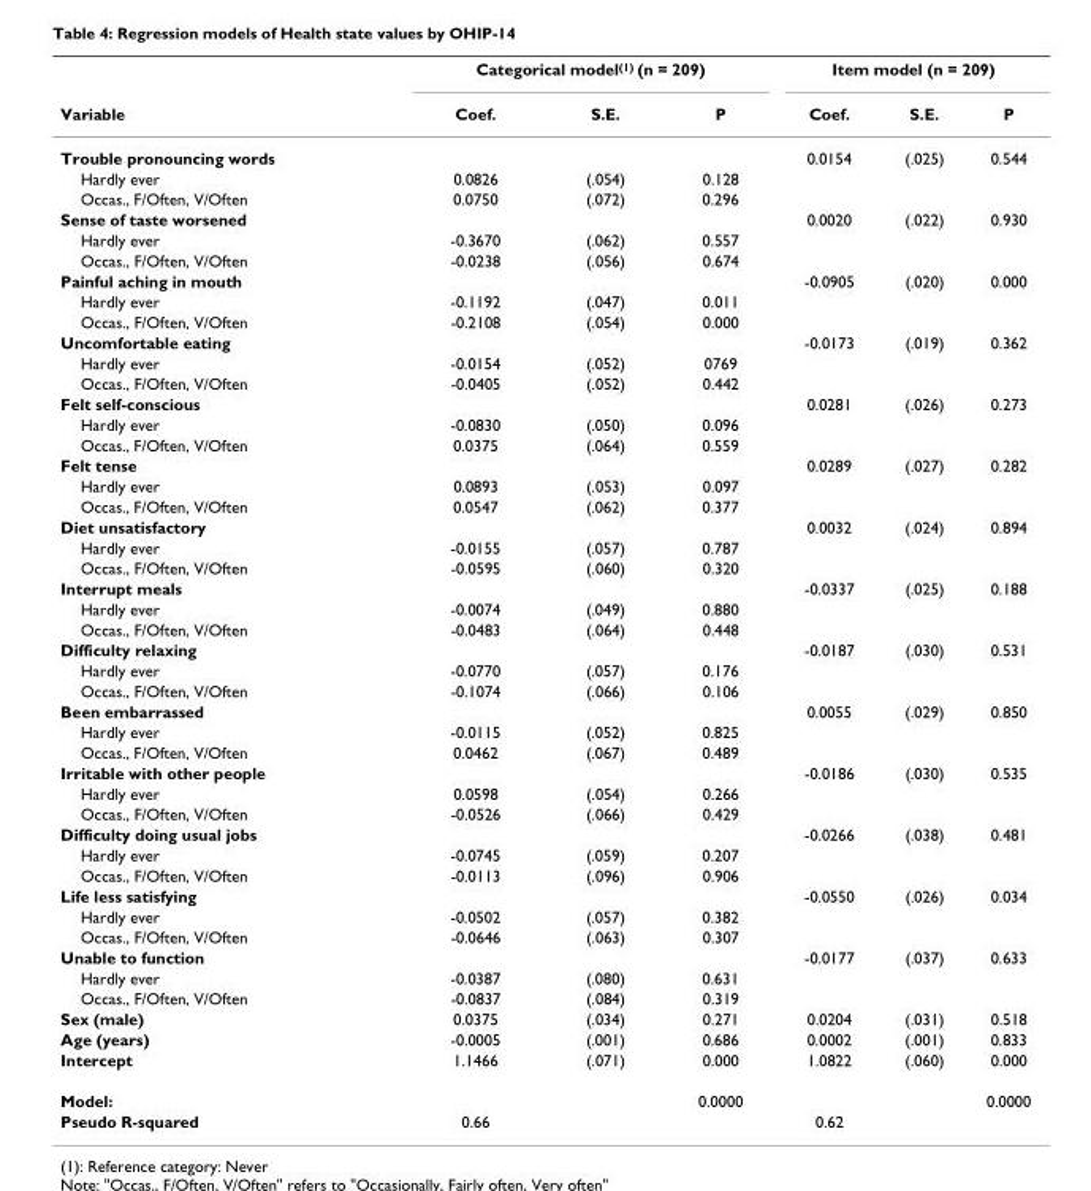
<table><thead><tr><td rowspan="2">Variable</td><td colspan="3">Categorical model(1) (n = 209)</td><td colspan="3">Item model (n = 209)</td></tr><tr><td>Coef.</td><td>S.E.</td><td>P</td><td>Coef.</td><td>S.E.</td><td>P</td></tr></thead><tbody><tr><td>Trouble pronouncing words</td><td></td><td></td><td></td><td>0.0154</td><td>(.025)</td><td>0.544</td></tr><tr><td>Hardly ever</td><td>0.0826</td><td>(.054)</td><td>0.128</td><td></td><td></td><td></td></tr><tr><td>Occas., F/Often, V/Often</td><td>0.0750</td><td>(.072)</td><td>0.296</td><td></td><td></td><td></td></tr><tr><td>Sense of taste worsened</td><td></td><td></td><td></td><td>0.0020</td><td>(.022)</td><td>0.930</td></tr><tr><td>Hardly ever</td><td>-0.3670</td><td>(.062)</td><td>0.557</td><td></td><td></td><td></td></tr><tr><td>Occas., F/Often, V/Often</td><td>-0.0238</td><td>(.056)</td><td>0.674</td><td></td><td></td><td></td></tr><tr><td>Painful aching in mouth</td><td></td><td></td><td></td><td>-0.0905</td><td>(.020)</td><td>0.000</td></tr><tr><td>Hardly ever</td><td>-0.1192</td><td>(.047)</td><td>0.011</td><td></td><td></td><td></td></tr><tr><td>Occas., F/Often, V/Often</td><td>-0.2108</td><td>(.054)</td><td>0.000</td><td></td><td></td><td></td></tr><tr><td>Uncomfortable eating</td><td></td><td></td><td></td><td>-0.0173</td><td>(.019)</td><td>0.362</td></tr><tr><td>Hardly ever</td><td>-0.0154</td><td>(.052)</td><td>0769</td><td></td><td></td><td></td></tr><tr><td>Occas., F/Often, V/Often</td><td>-0.0405</td><td>(.052)</td><td>0.442</td><td></td><td></td><td></td></tr><tr><td>Felt self-conscious</td><td></td><td></td><td></td><td>0.0281</td><td>(.026)</td><td>0.273</td></tr><tr><td>Hardly ever</td><td>-0.0830</td><td>(.050)</td><td>0.096</td><td></td><td></td><td></td></tr><tr><td>Occas., F/Often, V/Often</td><td>0.0375</td><td>(.064)</td><td>0.559</td><td></td><td></td><td></td></tr><tr><td>Felt tense</td><td></td><td></td><td></td><td>0.0289</td><td>(.027)</td><td>0.282</td></tr><tr><td>Hardly ever</td><td>0.0893</td><td>(.053)</td><td>0.097</td><td></td><td></td><td></td></tr><tr><td>Occas., F/Often, V/Often</td><td>0.0547</td><td>(.062)</td><td>0.377</td><td></td><td></td><td></td></tr><tr><td>Diet unsatisfactory</td><td></td><td></td><td></td><td>0.0032</td><td>(.024)</td><td>0.894</td></tr><tr><td>Hardly ever</td><td>-0.0155</td><td>(.057)</td><td>0.787</td><td></td><td></td><td></td></tr><tr><td>Occas., F/Often, V/Often</td><td>-0.0595</td><td>(.060)</td><td>0.320</td><td></td><td></td><td></td></tr><tr><td>Interrupt meals</td><td></td><td></td><td></td><td>-0.0337</td><td>(.025)</td><td>0.188</td></tr><tr><td>Hardly ever</td><td>-0.0074</td><td>(.049)</td><td>0.880</td><td></td><td></td><td></td></tr><tr><td>Occas., F/Often, V/Often</td><td>-0.0483</td><td>(.064)</td><td>0.448</td><td></td><td></td><td></td></tr><tr><td>Difficulty relaxing</td><td></td><td></td><td></td><td>-0.0187</td><td>(.030)</td><td>0.531</td></tr><tr><td>Hardly ever</td><td>-0.0770</td><td>(.057)</td><td>0.176</td><td></td><td></td><td></td></tr><tr><td>Occas., F/Often, V/Often</td><td>-0.1074</td><td>(.066)</td><td>0.106</td><td></td><td></td><td></td></tr><tr><td>Been embarrassed</td><td></td><td></td><td></td><td>0.0055</td><td>(.029)</td><td>0.850</td></tr><tr><td>Hardly ever</td><td>-0.0115</td><td>(.052)</td><td>0.825</td><td></td><td></td><td></td></tr><tr><td>Occas., F/Often, V/Often</td><td>0.0462</td><td>(.067)</td><td>0.489</td><td></td><td></td><td></td></tr><tr><td>Irritable with other people</td><td></td><td></td><td></td><td>-0.0186</td><td>(.030)</td><td>0.535</td></tr><tr><td>Hardly ever</td><td>0.0598</td><td>(.054)</td><td>0.266</td><td></td><td></td><td></td></tr><tr><td>Occas., F/Often, V/Often</td><td>-0.0526</td><td>(.066)</td><td>0.429</td><td></td><td></td><td></td></tr><tr><td>Difficulty doing usual jobs</td><td></td><td></td><td></td><td>-0.0266</td><td>(.038)</td><td>0.481</td></tr><tr><td>Hardly ever</td><td>-0.0745</td><td>(.059)</td><td>0.207</td><td></td><td></td><td></td></tr><tr><td>Occas., F/Often, V/Often</td><td>-0.0113</td><td>(.096)</td><td>0.906</td><td></td><td></td><td></td></tr><tr><td>Life less satisfying</td><td></td><td></td><td></td><td>-0.0550</td><td>(.026)</td><td>0.034</td></tr><tr><td>Hardly ever</td><td>-0.0502</td><td>(.057)</td><td>0.382</td><td></td><td></td><td></td></tr><tr><td>Occas., F/Often, V/Often</td><td>-0.0646</td><td>(.063)</td><td>0.307</td><td></td><td></td><td></td></tr><tr><td>Unable to function</td><td></td><td></td><td></td><td>-0.0177</td><td>(.037)</td><td>0.633</td></tr><tr><td>Hardly ever</td><td>-0.0387</td><td>(.080)</td><td>0.631</td><td></td><td></td><td></td></tr><tr><td>Occas., F/Often, V/Often</td><td>-0.0837</td><td>(.084)</td><td>0.319</td><td></td><td></td><td></td></tr><tr><td>Sex (male)</td><td>0.0375</td><td>(.034)</td><td>0.271</td><td>0.0204</td><td>(.031)</td><td>0.518</td></tr><tr><td>Age (years)</td><td>-0.0005</td><td>(.001)</td><td>0.686</td><td>0.0002</td><td>(.001)</td><td>0.833</td></tr><tr><td>Intercept</td><td>1.1466</td><td>(.071)</td><td>0.000</td><td>1.0822</td><td>(.060)</td><td>0.000</td></tr><tr><td>Model:</td><td></td><td></td><td>0.0000</td><td></td><td></td><td>0.0000</td></tr><tr><td>Pseudo R-squared</td><td>0.66</td><td></td><td></td><td>0.62</td><td></td><td></td></tr></tbody></table>